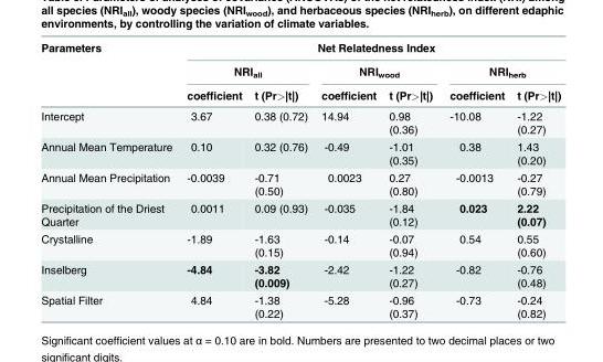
<table><thead><tr><td rowspan="3">Parameters</td><td colspan="6">Net Relatedness Index</td></tr><tr><td colspan="2">NRI<sub>all</sub></td><td colspan="2">NRI<sub>wood</sub></td><td colspan="2">NRI<sub>herb</sub></td></tr><tr><td>coefficient</td><td>t (Pr&gt;|t|)</td><td>coefficient</td><td>t (Pr&gt;|t|)</td><td>coefficient</td><td>t (Pr&gt;|t|)</td></tr></thead><tbody><tr><td>Intercept</td><td>3.67</td><td>0.38 (0.72)</td><td>14.94</td><td>0.98 (0.36)</td><td>-10.08</td><td>-1.22 (0.27)</td></tr><tr><td>Annual Mean Temperature</td><td>0.10</td><td>0.32 (0.76)</td><td>-0.49</td><td>-1.01 (0.35)</td><td>0.38</td><td>1.43 (0.20)</td></tr><tr><td>Annual Mean Precipitation</td><td>-0.0039</td><td>-0.71 (0.50)</td><td>0.0023</td><td>0.27 (0.80)</td><td>-0.0013</td><td>-0.27 (0.79)</td></tr><tr><td>Precipitation of the Driest Quarter</td><td>0.0011</td><td>0.09 (0.93)</td><td>-0.035</td><td>-1.84 (0.12)</td><td>0.023</td><td>2.22 (0.07)</td></tr><tr><td>Crystalline</td><td>-1.89</td><td>-1.63 (0.15)</td><td>-0.14</td><td>-0.07 (0.94)</td><td>0.54</td><td>0.55 (0.60)</td></tr><tr><td>Inselberg</td><td>-4.84</td><td>-3.82 (0.009)</td><td>-2.42</td><td>-1.22 (0.27)</td><td>-0.82</td><td>-0.76 (0.48)</td></tr><tr><td>Spatial Filter</td><td>4.84</td><td>-1.38 (0.22)</td><td>-5.28</td><td>-0.96 (0.37)</td><td>-0.73</td><td>-0.24 (0.82)</td></tr></tbody></table>